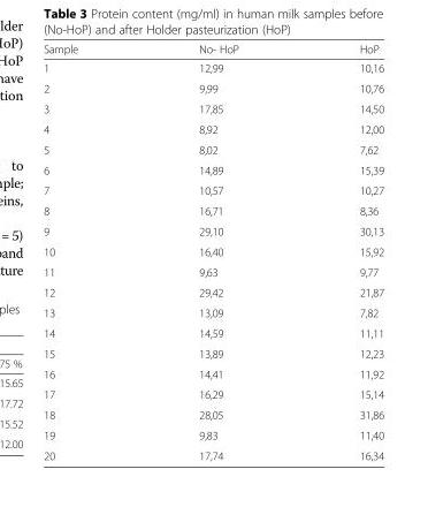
<table><thead><tr><td>Sample</td><td>No- HoP</td><td>HoP</td></tr></thead><tbody><tr><td>1</td><td>12,99</td><td>10,16</td></tr><tr><td>2</td><td>9,99</td><td>10,76</td></tr><tr><td>3</td><td>17,85</td><td>14,50</td></tr><tr><td>4</td><td>8,92</td><td>12,00</td></tr><tr><td>5</td><td>8,02</td><td>7,62</td></tr><tr><td>6</td><td>14,89</td><td>15,39</td></tr><tr><td>7</td><td>10,57</td><td>10,27</td></tr><tr><td>8</td><td>16,71</td><td>8,36</td></tr><tr><td>9</td><td>29,10</td><td>30,13</td></tr><tr><td>10</td><td>16,40</td><td>15,92</td></tr><tr><td>11</td><td>9,63</td><td>9,77</td></tr><tr><td>12</td><td>29,42</td><td>21,87</td></tr><tr><td>13</td><td>13,09</td><td>7,82</td></tr><tr><td>14</td><td>14,59</td><td>11,11</td></tr><tr><td>15</td><td>13,89</td><td>12,23</td></tr><tr><td>16</td><td>14,41</td><td>11,92</td></tr><tr><td>17</td><td>16,29</td><td>15,14</td></tr><tr><td>18</td><td>28,05</td><td>31,86</td></tr><tr><td>19</td><td>9,83</td><td>11,40</td></tr><tr><td>20</td><td>17,74</td><td>16,34</td></tr></tbody></table>